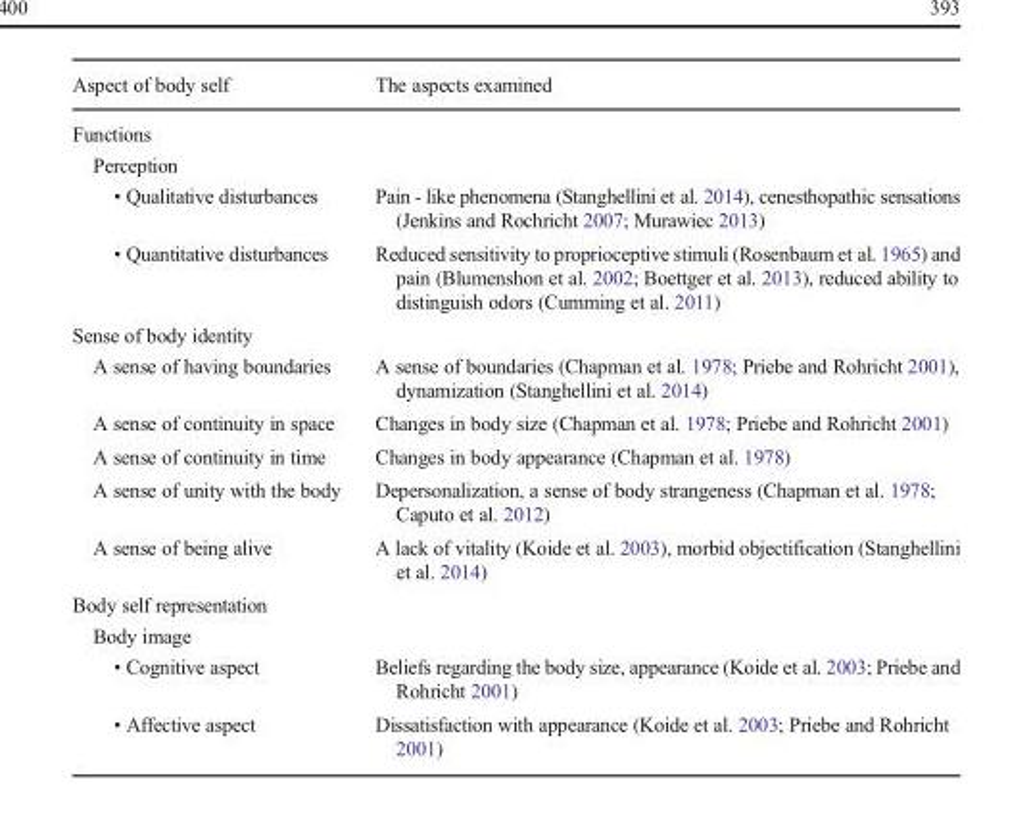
<table><thead><tr><td>Aspect of body self</td><td>The aspects examined</td></tr></thead><tbody><tr><td colspan="2">Functions</td></tr><tr><td colspan="2">Perception</td></tr><tr><td>• Qualitative disturbances</td><td>Pain - like phenomena (Stanghellini et al. 2014), cenesthopathic sensations (Jenkins and Rochricht 2007; Murawiec 2013)</td></tr><tr><td>• Quantitative disturbances</td><td>Reduced sensitivity to proprioceptive stimuli (Rosenbaum et al. 1965) and pain (Blumenshon et al. 2002; Boettger et al. 2013), reduced ability to distinguish odors (Cumming et al. 2011)</td></tr><tr><td colspan="2">Sense of body identity</td></tr><tr><td>A sense of having boundaries</td><td>A sense of boundaries (Chapman et al. 1978; Priebe and Rohricht 2001), dynamization (Stanghellini et al. 2014)</td></tr><tr><td>A sense of continuity in space</td><td>Changes in body size (Chapman et al. 1978; Priebe and Rohricht 2001)</td></tr><tr><td>A sense of continuity in time</td><td>Changes in body appearance (Chapman et al. 1978)</td></tr><tr><td>A sense of unity with the body</td><td>Depersonalization, a sense of body strangeness (Chapman et al. 1978; Caputo et al. 2012)</td></tr><tr><td>A sense of being alive</td><td>A lack of vitality (Koide et al. 2003), morbid objectification (Stanghellini et al. 2014)</td></tr><tr><td colspan="2">Body self representation</td></tr><tr><td colspan="2">Body image</td></tr><tr><td>• Cognitive aspect</td><td>Beliefs regarding the body size, appearance (Koide et al. 2003; Priebe and Rohricht 2001)</td></tr><tr><td>• Affective aspect</td><td>Dissatisfaction with appearance (Koide et al. 2003; Priebe and Rohricht 2001)</td></tr></tbody></table>